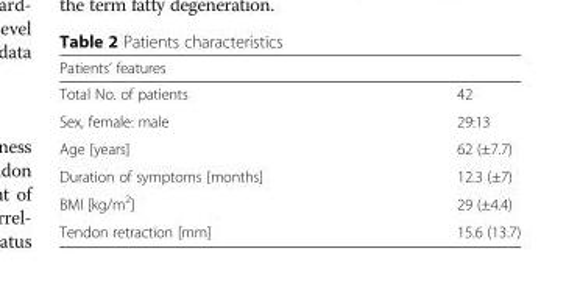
<table><thead><tr><td colspan="2">Patients’ features</td></tr><tr><td>Total No. of patients</td><td>42</td></tr></thead><tbody><tr><td>Sex, female: male</td><td>29:13</td></tr><tr><td>Age [years]</td><td>62 (±7.7)</td></tr><tr><td>Duration of symptoms [months]</td><td>12.3 (±7)</td></tr><tr><td>BMI [kg/m<sup>2</sup>]</td><td>29 (±4.4)</td></tr><tr><td>Tendon retraction [mm]</td><td>15.6 (13.7)</td></tr></tbody></table>